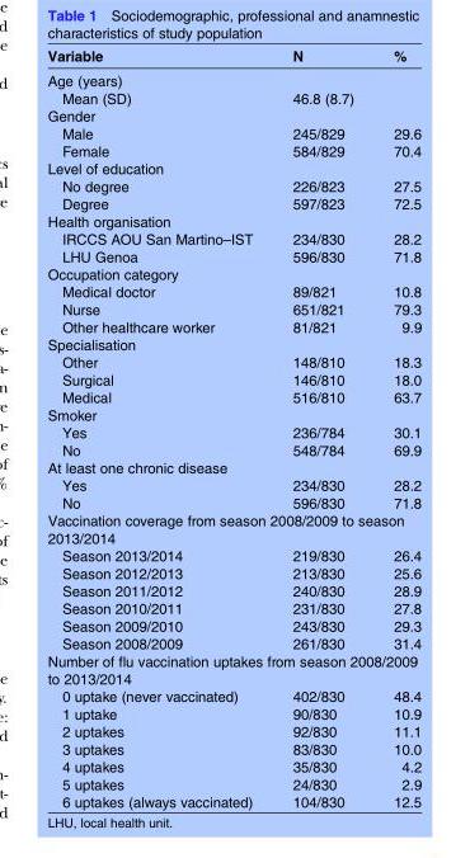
<table><thead><tr><td>Variable</td><td>N</td><td>%</td></tr></thead><tbody><tr><td colspan="3">Age (years)</td></tr><tr><td>Mean (SD)</td><td>46.8 (8.7)</td><td></td></tr><tr><td colspan="3">Gender</td></tr><tr><td>Male</td><td>245/829</td><td>29.6</td></tr><tr><td>Female</td><td>584/829</td><td>70.4</td></tr><tr><td colspan="3">Level of education</td></tr><tr><td>No degree</td><td>226/823</td><td>27.5</td></tr><tr><td>Degree</td><td>597/823</td><td>72.5</td></tr><tr><td colspan="3">Health organisation</td></tr><tr><td>IRCCS AOU San Martino–IST</td><td>234/830</td><td>28.2</td></tr><tr><td>LHU Genoa</td><td>596/830</td><td>71.8</td></tr><tr><td colspan="3">Occupation category</td></tr><tr><td>Medical doctor</td><td>89/821</td><td>10.8</td></tr><tr><td>Nurse</td><td>651/821</td><td>79.3</td></tr><tr><td>Other healthcare worker</td><td>81/821</td><td>9.9</td></tr><tr><td colspan="3">Specialisation</td></tr><tr><td>Other</td><td>148/810</td><td>18.3</td></tr><tr><td>Surgical</td><td>146/810</td><td>18.0</td></tr><tr><td>Medical</td><td>516/810</td><td>63.7</td></tr><tr><td colspan="3">Smoker</td></tr><tr><td>Yes</td><td>236/784</td><td>30.1</td></tr><tr><td>No</td><td>548/784</td><td>69.9</td></tr><tr><td colspan="3">At least one chronic disease</td></tr><tr><td>Yes</td><td>234/830</td><td>28.2</td></tr><tr><td>No</td><td>596/830</td><td>71.8</td></tr><tr><td colspan="3">Vaccination coverage from season 2008/2009 to season 2013/2014</td></tr><tr><td>Season 2013/2014</td><td>219/830</td><td>26.4</td></tr><tr><td>Season 2012/2013</td><td>213/830</td><td>25.6</td></tr><tr><td>Season 2011/2012</td><td>240/830</td><td>28.9</td></tr><tr><td>Season 2010/2011</td><td>231/830</td><td>27.8</td></tr><tr><td>Season 2009/2010</td><td>243/830</td><td>29.3</td></tr><tr><td>Season 2008/2009</td><td>261/830</td><td>31.4</td></tr><tr><td colspan="3">Number of flu vaccination uptakes from season 2008/2009 to 2013/2014</td></tr><tr><td>0 uptake (never vaccinated)</td><td>402/830</td><td>48.4</td></tr><tr><td>1 uptake</td><td>90/830</td><td>10.9</td></tr><tr><td>2 uptakes</td><td>92/830</td><td>11.1</td></tr><tr><td>3 uptakes</td><td>83/830</td><td>10.0</td></tr><tr><td>4 uptakes</td><td>35/830</td><td>4.2</td></tr><tr><td>5 uptakes</td><td>24/830</td><td>2.9</td></tr><tr><td>6 uptakes (always vaccinated)</td><td>104/830</td><td>12.5</td></tr></tbody></table>